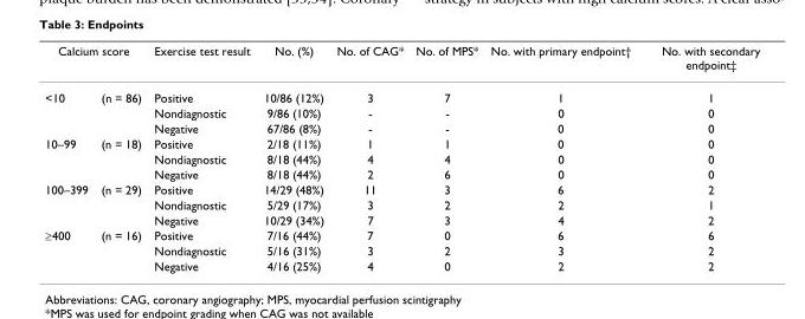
<table><thead><tr><td colspan="2">Calcium score</td><td rowspan="2">Exercise test result Positive</td><td rowspan="2">No. (%) 10/86 (12%)</td><td rowspan="2">No. of CAG* 3</td><td rowspan="2">No. of MPS* 7</td><td rowspan="2">No. with primary endpoint† 1</td><td rowspan="2">No. with secondary endpoint‡ 1</td></tr><tr><td>&lt;10</td><td>(n = 86)</td></tr></thead><tbody><tr><td></td><td></td><td>Nondiagnostic</td><td>9/86 (10%)</td><td>-</td><td>-</td><td>0</td><td>0</td></tr><tr><td></td><td></td><td>Negative</td><td>67/86 (8%)</td><td>-</td><td>-</td><td>0</td><td>0</td></tr><tr><td rowspan="3">10–99</td><td>(n = 18)</td><td>Positive</td><td>2/18 (11%)</td><td>1</td><td>1</td><td>0</td><td>0</td></tr><tr><td></td><td>Nondiagnostic</td><td>8/18 (44%)</td><td>4</td><td>4</td><td>0</td><td>0</td></tr><tr><td></td><td>Negative</td><td>8/18 (44%)</td><td>2</td><td>6</td><td>0</td><td>0</td></tr><tr><td rowspan="3">100–399</td><td>(n = 29)</td><td>Positive</td><td>14/29 (48%)</td><td>11</td><td>3</td><td>6</td><td>2</td></tr><tr><td></td><td>Nondiagnostic</td><td>5/29 (17%)</td><td>3</td><td>2</td><td>2</td><td>1</td></tr><tr><td></td><td>Negative</td><td>10/29 (34%)</td><td>7</td><td>3</td><td>4</td><td>2</td></tr><tr><td rowspan="3">≥400</td><td>(n = 16)</td><td>Positive</td><td>7/16 (44%)</td><td>7</td><td>0</td><td>6</td><td>6</td></tr><tr><td></td><td>Nondiagnostic</td><td>5/16 (31%)</td><td>3</td><td>2</td><td>3</td><td>2</td></tr><tr><td></td><td>Negative</td><td>4/16 (25%)</td><td>4</td><td>0</td><td>2</td><td>2</td></tr></tbody></table>